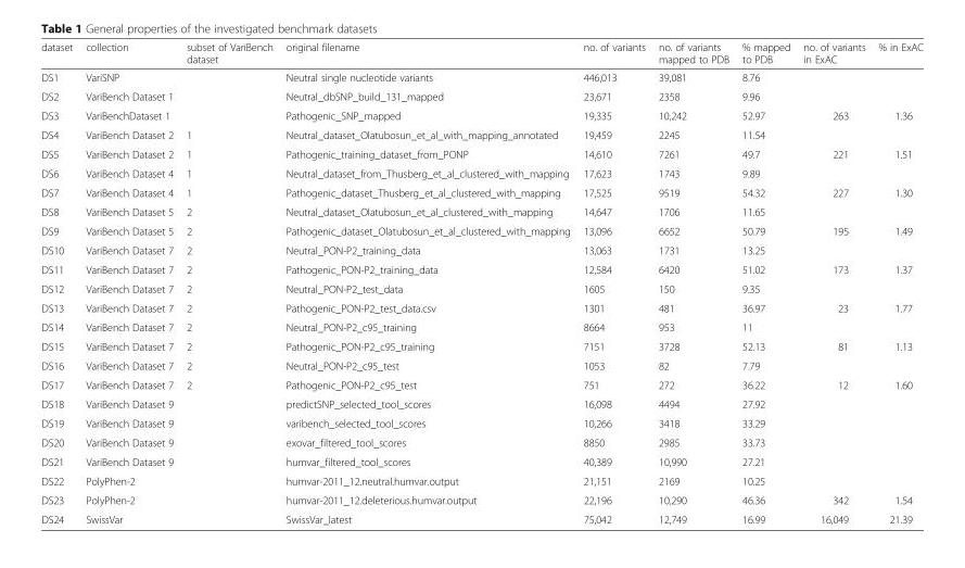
<table><thead><tr><td>dataset</td><td>collection</td><td>subset of VariBench dataset</td><td>original filename</td><td>no. of variants</td><td>no. of variants mapped to PDB</td><td>% mapped to PDB</td><td>no. of variants in ExAC</td><td>% in ExAC</td></tr></thead><tbody><tr><td>DS1</td><td>VariSNP</td><td></td><td>Neutral single nucleotide variants</td><td>446,013</td><td>39,081</td><td>8.76</td><td></td><td></td></tr><tr><td>DS2</td><td>VariBench Dataset 1</td><td></td><td>Neutral_dbSNP_build_131_mapped</td><td>23,671</td><td>2358</td><td>9.96</td><td></td><td></td></tr><tr><td>DS3</td><td>VariBenchDataset 1</td><td></td><td>Pathogenic_SNP_mapped</td><td>19,335</td><td>10,242</td><td>52.97</td><td>263</td><td>1.36</td></tr><tr><td>DS4</td><td>VariBench Dataset 2</td><td>1</td><td>Neutral_dataset_Olatubosun_et_al_with_mapping_annotated</td><td>19,459</td><td>2245</td><td>11.54</td><td></td><td></td></tr><tr><td>DS5</td><td>VariBench Dataset 2</td><td>1</td><td>Pathogenic_training_dataset_from_PONP</td><td>14,610</td><td>7261</td><td>49.7</td><td>221</td><td>1.51</td></tr><tr><td>DS6</td><td>VariBench Dataset 4</td><td>1</td><td>Neutral_dataset_from_Thusberg_et_al_clustered_with_mapping</td><td>17,623</td><td>1743</td><td>9.89</td><td></td><td></td></tr><tr><td>DS7</td><td>VariBench Dataset 4</td><td>1</td><td>Pathogenic_dataset_Thusberg_et_al_clustered_with_mapping</td><td>17,525</td><td>9519</td><td>54.32</td><td>227</td><td>1.30</td></tr><tr><td>DS8</td><td>VariBench Dataset 5</td><td>2</td><td>Neutral_dataset_Olatubosun_et_al_clustered_with_mapping</td><td>14,647</td><td>1706</td><td>11.65</td><td></td><td></td></tr><tr><td>DS9</td><td>VariBench Dataset 5</td><td>2</td><td>Pathogenic_dataset_Olatubosun_et_al_clustered_with_mapping</td><td>13,096</td><td>6652</td><td>50.79</td><td>195</td><td>1.49</td></tr><tr><td>DS10</td><td>VariBench Dataset 7</td><td>2</td><td>Neutral_PON-P2_training_data</td><td>13,063</td><td>1731</td><td>13.25</td><td></td><td></td></tr><tr><td>DS11</td><td>VariBench Dataset 7</td><td>2</td><td>Pathogenic_PON-P2_training_data</td><td>12,584</td><td>6420</td><td>51.02</td><td>173</td><td>1.37</td></tr><tr><td>DS12</td><td>VariBench Dataset 7</td><td>2</td><td>Neutral_PON-P2_test_data</td><td>1605</td><td>150</td><td>9.35</td><td></td><td></td></tr><tr><td>DS13</td><td>VariBench Dataset 7</td><td>2</td><td>Pathogenic_PON-P2_test_data.csv</td><td>1301</td><td>481</td><td>36.97</td><td>23</td><td>1.77</td></tr><tr><td>DS14</td><td>VariBench Dataset 7</td><td>2</td><td>Neutral_PON-P2_c95_training</td><td>8664</td><td>953</td><td>11</td><td></td><td></td></tr><tr><td>DS15</td><td>VariBench Dataset 7</td><td>2</td><td>Pathogenic_PON-P2_c95_training</td><td>7151</td><td>3728</td><td>52.13</td><td>81</td><td>1.13</td></tr><tr><td>DS16</td><td>VariBench Dataset 7</td><td>2</td><td>Neutral_PON-P2_c95_test</td><td>1053</td><td>82</td><td>7.79</td><td></td><td></td></tr><tr><td>DS17</td><td>VariBench Dataset 7</td><td>2</td><td>Pathogenic_PON-P2_c95_test</td><td>751</td><td>272</td><td>36.22</td><td>12</td><td>1.60</td></tr><tr><td>DS18</td><td>VariBench Dataset 9</td><td></td><td>predictSNP_selected_tool_scores</td><td>16,098</td><td>4494</td><td>27.92</td><td></td><td></td></tr><tr><td>DS19</td><td>VariBench Dataset 9</td><td></td><td>varibench_selected_tool_scores</td><td>10,266</td><td>3418</td><td>33.29</td><td></td><td></td></tr><tr><td>DS20</td><td>VariBench Dataset 9</td><td></td><td>exovar_filtered_tool_scores</td><td>8850</td><td>2985</td><td>33.73</td><td></td><td></td></tr><tr><td>DS21</td><td>VariBench Dataset 9</td><td></td><td>humvar_filtered_tool_scores</td><td>40,389</td><td>10,990</td><td>27.21</td><td></td><td></td></tr><tr><td>DS22</td><td>PolyPhen-2</td><td></td><td>humvar-2011_12.neutral.humvar.output</td><td>21,151</td><td>2169</td><td>10.25</td><td></td><td></td></tr><tr><td>DS23</td><td>PolyPhen-2</td><td></td><td>humvar-2011_12.deleterious.humvar.output</td><td>22,196</td><td>10,290</td><td>46.36</td><td>342</td><td>1.54</td></tr><tr><td>DS24</td><td>SwissVar</td><td></td><td>SwissVar_latest</td><td>75,042</td><td>12,749</td><td>16.99</td><td>16,049</td><td>21.39</td></tr></tbody></table>